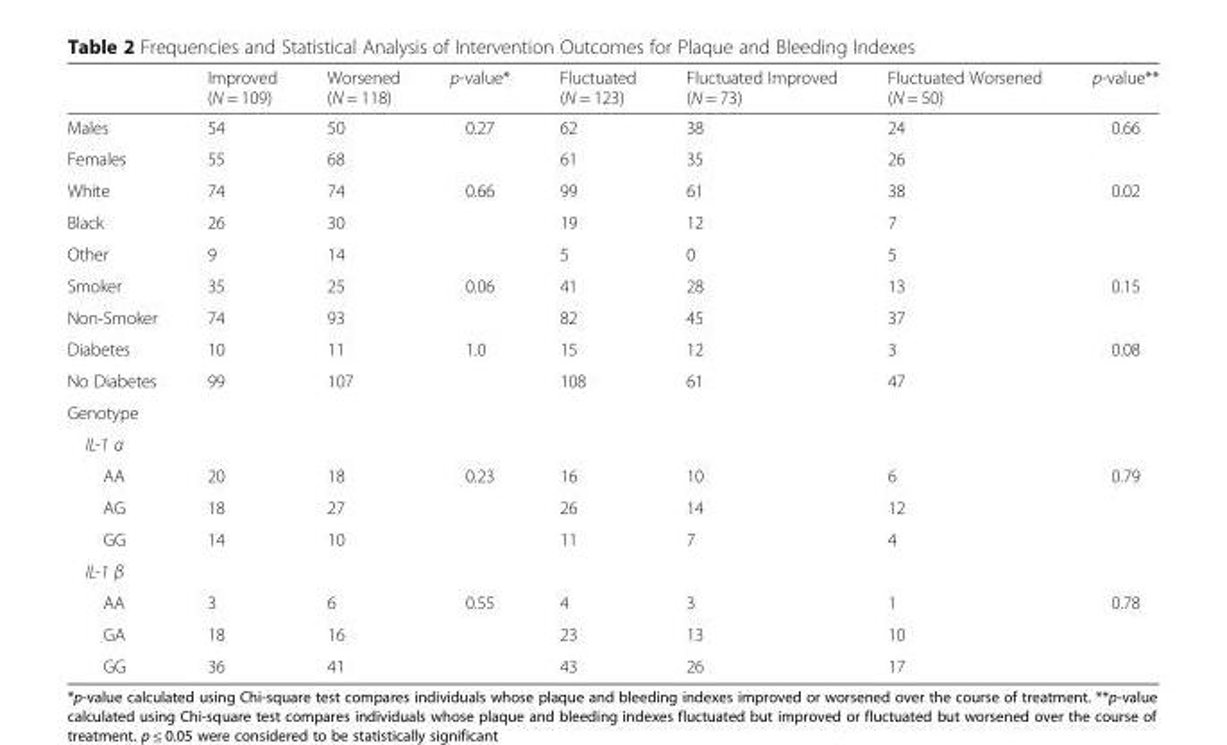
<table><thead><tr><td></td><td>Improved (N = 109)</td><td>Worsened (N = 118)</td><td>p-value*</td><td>Fluctuated (N = 123)</td><td>Fluctuated Improved (N = 73)</td><td>Fluctuated Worsened (N = 50)</td><td>p-value**</td></tr></thead><tbody><tr><td>Males</td><td>54</td><td>50</td><td>0.27</td><td>62</td><td>38</td><td>24</td><td>0.66</td></tr><tr><td>Females</td><td>55</td><td>68</td><td></td><td>61</td><td>35</td><td>26</td><td></td></tr><tr><td>White</td><td>74</td><td>74</td><td>0.66</td><td>99</td><td>61</td><td>38</td><td>0.02</td></tr><tr><td>Black</td><td>26</td><td>30</td><td></td><td>19</td><td>12</td><td>7</td><td></td></tr><tr><td>Other</td><td>9</td><td>14</td><td></td><td>5</td><td>0</td><td>5</td><td></td></tr><tr><td>Smoker</td><td>35</td><td>25</td><td>0.06</td><td>41</td><td>28</td><td>13</td><td>0.15</td></tr><tr><td>Non-Smoker</td><td>74</td><td>93</td><td></td><td>82</td><td>45</td><td>37</td><td></td></tr><tr><td>Diabetes</td><td>10</td><td>11</td><td>1.0</td><td>15</td><td>12</td><td>3</td><td>0.08</td></tr><tr><td>No Diabetes</td><td>99</td><td>107</td><td></td><td>108</td><td>61</td><td>47</td><td></td></tr><tr><td colspan="8">Genotype</td></tr><tr><td colspan="8">IL-1 α</td></tr><tr><td>AA</td><td>20</td><td>18</td><td>0.23</td><td>16</td><td>10</td><td>6</td><td>0.79</td></tr><tr><td>AG</td><td>18</td><td>27</td><td></td><td>26</td><td>14</td><td>12</td><td></td></tr><tr><td>GG</td><td>14</td><td>10</td><td></td><td>11</td><td>7</td><td>4</td><td></td></tr><tr><td colspan="8">IL-1 β</td></tr><tr><td>AA</td><td>3</td><td>6</td><td>0.55</td><td>4</td><td>3</td><td>1</td><td>0.78</td></tr><tr><td>GA</td><td>18</td><td>16</td><td></td><td>23</td><td>13</td><td>10</td><td></td></tr><tr><td>GG</td><td>36</td><td>41</td><td></td><td>43</td><td>26</td><td>17</td><td></td></tr></tbody></table>